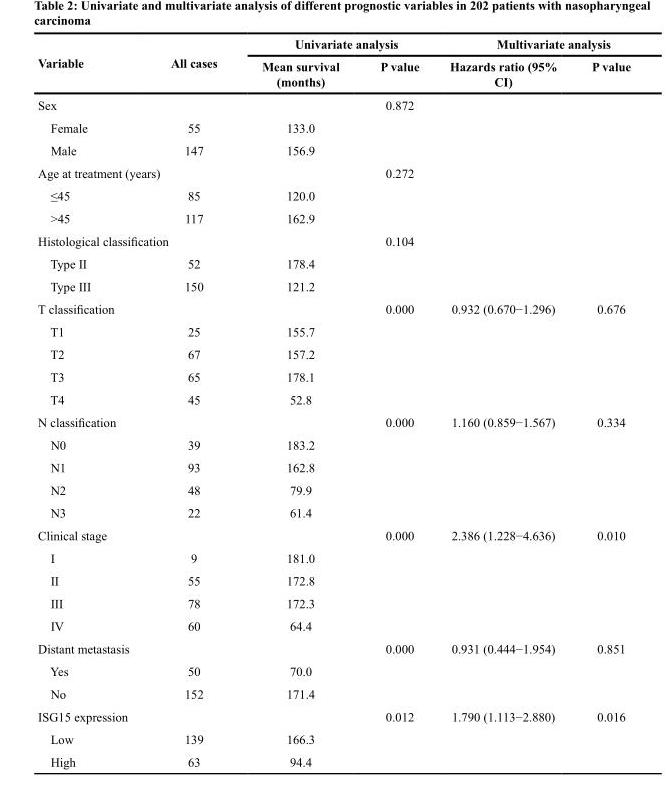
<table><thead><tr><td rowspan="2">Variable</td><td rowspan="2">All cases</td><td colspan="2">Univariate analysis</td><td colspan="2">Multivariate analysis</td></tr><tr><td>Mean survival (months)</td><td>P value</td><td>Hazards ratio (95% CI)</td><td>P value</td></tr></thead><tbody><tr><td>Sex</td><td></td><td></td><td>0.872</td><td></td><td></td></tr><tr><td>Female</td><td>55</td><td>133.0</td><td></td><td></td><td></td></tr><tr><td>Male</td><td>147</td><td>156.9</td><td></td><td></td><td></td></tr><tr><td>Age at treatment (years)</td><td></td><td></td><td>0.272</td><td></td><td></td></tr><tr><td>≤45</td><td>85</td><td>120.0</td><td></td><td></td><td></td></tr><tr><td>&gt;45</td><td>117</td><td>162.9</td><td></td><td></td><td></td></tr><tr><td>Histological classification</td><td></td><td></td><td>0.104</td><td></td><td></td></tr><tr><td>Type II</td><td>52</td><td>178.4</td><td></td><td></td><td></td></tr><tr><td>Type III</td><td>150</td><td>121.2</td><td></td><td></td><td></td></tr><tr><td>T classification</td><td></td><td></td><td>0.000</td><td>0.932 (0.670−1.296)</td><td>0.676</td></tr><tr><td>T1</td><td>25</td><td>155.7</td><td></td><td></td><td></td></tr><tr><td>T2</td><td>67</td><td>157.2</td><td></td><td></td><td></td></tr><tr><td>T3</td><td>65</td><td>178.1</td><td></td><td></td><td></td></tr><tr><td>T4</td><td>45</td><td>52.8</td><td></td><td></td><td></td></tr><tr><td>N classification</td><td></td><td></td><td>0.000</td><td>1.160 (0.859−1.567)</td><td>0.334</td></tr><tr><td>N0</td><td>39</td><td>183.2</td><td></td><td></td><td></td></tr><tr><td>N1</td><td>93</td><td>162.8</td><td></td><td></td><td></td></tr><tr><td>N2</td><td>48</td><td>79.9</td><td></td><td></td><td></td></tr><tr><td>N3</td><td>22</td><td>61.4</td><td></td><td></td><td></td></tr><tr><td>Clinical stage</td><td></td><td></td><td>0.000</td><td>2.386 (1.228−4.636)</td><td>0.010</td></tr><tr><td>I</td><td>9</td><td>181.0</td><td></td><td></td><td></td></tr><tr><td>II</td><td>55</td><td>172.8</td><td></td><td></td><td></td></tr><tr><td>III</td><td>78</td><td>172.3</td><td></td><td></td><td></td></tr><tr><td>IV</td><td>60</td><td>64.4</td><td></td><td></td><td></td></tr><tr><td>Distant metastasis</td><td></td><td></td><td>0.000</td><td>0.931 (0.444−1.954)</td><td>0.851</td></tr><tr><td>Yes</td><td>50</td><td>70.0</td><td></td><td></td><td></td></tr><tr><td>No</td><td>152</td><td>171.4</td><td></td><td></td><td></td></tr><tr><td>ISG15 expression</td><td></td><td></td><td>0.012</td><td>1.790 (1.113−2.880)</td><td>0.016</td></tr><tr><td>Low</td><td>139</td><td>166.3</td><td></td><td></td><td></td></tr><tr><td>High</td><td>63</td><td>94.4</td><td></td><td></td><td></td></tr></tbody></table>